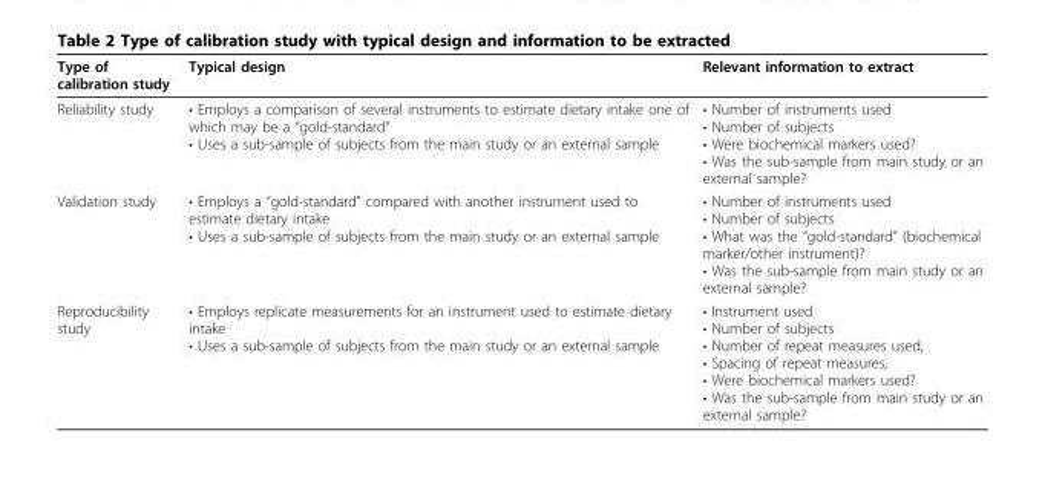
<table><thead><tr><td>Type of calibration study</td><td>Typical design</td><td>Relevant information to extract</td></tr></thead><tbody><tr><td>Reliability study</td><td>• Employs a comparison of several instruments to estimate dietary intake one of which may be a “gold-standard” • Uses a sub-sample of subjects from the main study or an external sample</td><td>• Number of instruments used • Number of subjects • Were biochemical markers used? • Was the sub-sample from main study or an external sample?</td></tr><tr><td>Validation study</td><td>• Employs a “gold-standard” compared with another instrument used to estimate dietary intake • Uses a sub-sample of subjects from the main study or an external sample</td><td>• Number of instruments used • Number of subjects • What was the “gold-standard” (biochemical marker/other instrument)? • Was the sub-sample from main study or an external sample?</td></tr><tr><td>Reproducibility study</td><td>• Employs replicate measurements for an instrument used to estimate dietary intake • Uses a sub-sample of subjects from the main study or an external sample</td><td>• Instrument used • Number of subjects • Number of repeat measures used, • Spacing of repeat measures, • Were biochemical markers used? • Was the sub-sample from main study or an external sample?</td></tr></tbody></table>